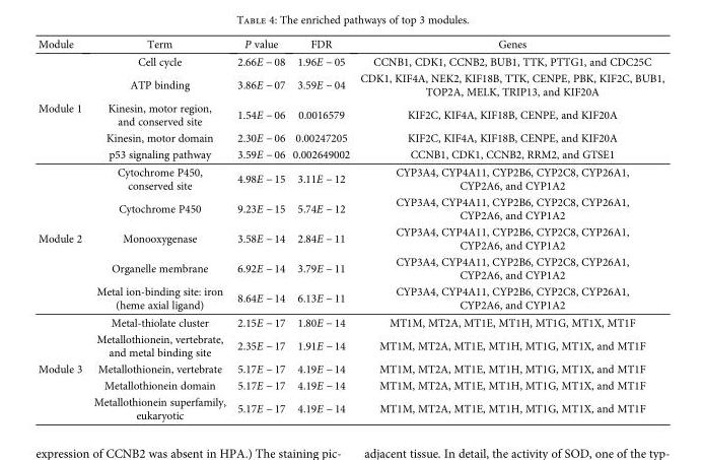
<table><thead><tr><td>Module</td><td>Term</td><td>P value</td><td>FDR</td><td>Genes</td></tr></thead><tbody><tr><td rowspan="5">Module 1</td><td>Cell cycle</td><td>2.66E − 08</td><td>1.96E − 05</td><td>CCNB1, CDK1, CCNB2, BUB1, TTK, PTTG1, and CDC25C</td></tr><tr><td>ATP binding</td><td>3.86E − 07</td><td>3.59E − 04</td><td>CDK1, KIF4A, NEK2, KIF18B, TTK, CENPE, PBK, KIF2C, BUB1, TOP2A, MELK, TRIP13, and KIF20A</td></tr><tr><td>Kinesin, motor region, and conserved site</td><td>1.54E − 06</td><td>0.0016579</td><td>KIF2C, KIF4A, KIF18B, CENPE, and KIF20A</td></tr><tr><td>Kinesin, motor domain</td><td>2.30E − 06</td><td>0.00247205</td><td>KIF2C, KIF4A, KIF18B, CENPE, and KIF20A</td></tr><tr><td>p53 signaling pathway</td><td>3.59E − 06</td><td>0.002649002</td><td>CCNB1, CDK1, CCNB2, RRM2, and GTSE1</td></tr><tr><td rowspan="5">Module 2</td><td>Cytochrome P450, conserved site</td><td>4.98E − 15</td><td>3.11E − 12</td><td>CYP3A4, CYP4A11, CYP2B6, CYP2C8, CYP26A1, CYP2A6, and CYP1A2</td></tr><tr><td>Cytochrome P450</td><td>9.23E − 15</td><td>5.74E − 12</td><td>CYP3A4, CYP4A11, CYP2B6, CYP2C8, CYP26A1, CYP2A6, and CYP1A2</td></tr><tr><td>Monooxygenase</td><td>3.58E − 14</td><td>2.84E − 11</td><td>CYP3A4, CYP4A11, CYP2B6, CYP2C8, CYP26A1, CYP2A6, and CYP1A2</td></tr><tr><td>Organelle membrane</td><td>6.92E − 14</td><td>3.79E − 11</td><td>CYP3A4, CYP4A11, CYP2B6, CYP2C8, CYP26A1, CYP2A6, and CYP1A2</td></tr><tr><td>Metal ion-binding site: iron (heme axial ligand)</td><td>8.64E − 14</td><td>6.13E − 11</td><td>CYP3A4, CYP4A11, CYP2B6, CYP2C8, CYP26A1, CYP2A6, and CYP1A2</td></tr><tr><td rowspan="5">Module 3</td><td>Metal-thiolate cluster</td><td>2.15E − 17</td><td>1.80E − 14</td><td>MT1M, MT2A, MT1E, MT1H, MT1G, MT1X, MT1F</td></tr><tr><td>Metallothionein, vertebrate, and metal binding site</td><td>2.35E − 17</td><td>1.91E − 14</td><td>MT1M, MT2A, MT1E, MT1H, MT1G, MT1X, and MT1F</td></tr><tr><td>Metallothionein, vertebrate</td><td>5.17E − 17</td><td>4.19E − 14</td><td>MT1M, MT2A, MT1E, MT1H, MT1G, MT1X, and MT1F</td></tr><tr><td>Metallothionein domain</td><td>5.17E − 17</td><td>4.19E − 14</td><td>MT1M, MT2A, MT1E, MT1H, MT1G, MT1X, and MT1F</td></tr><tr><td>Metallothionein superfamily, eukaryotic</td><td>5.17E − 17</td><td>4.19E − 14</td><td>MT1M, MT2A, MT1E, MT1H, MT1G, MT1X, and MT1F</td></tr></tbody></table>